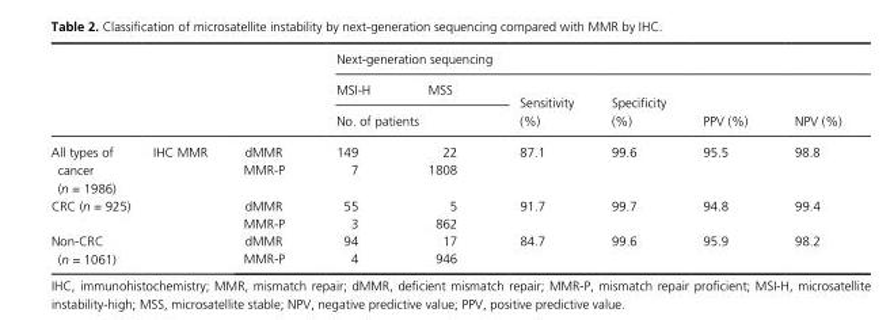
<table><thead><tr><td rowspan="3"></td><td rowspan="3"></td><td rowspan="3"></td><td colspan="6">Next- generation sequencing</td></tr><tr><td>MSI- H</td><td>MSS</td><td rowspan="2">Sensitivity (%)</td><td rowspan="2">Specificity (%)</td><td rowspan="2">PPV (%)</td><td rowspan="2">NPV (%)</td></tr><tr><td colspan="2">No. of patients</td></tr></thead><tbody><tr><td rowspan="2">All types of cancer (n = 1986)</td><td rowspan="6">IHC MMR</td><td>dMMR</td><td>149</td><td>22</td><td>87.1</td><td>99.6</td><td>95.5</td><td>98.8</td></tr><tr><td>MMR- P</td><td>7</td><td>1808</td><td></td><td></td><td></td><td></td></tr><tr><td rowspan="2">CRC (n = 925)</td><td>dMMR</td><td>55</td><td>5</td><td>91.7</td><td>99.7</td><td>94.8</td><td>99.4</td></tr><tr><td>MMR- P</td><td>3</td><td>862</td><td></td><td></td><td></td><td></td></tr><tr><td rowspan="2">Non- CRC (n = 1061)</td><td>dMMR</td><td>94</td><td>17</td><td>84.7</td><td>99.6</td><td>95.9</td><td>98.2</td></tr><tr><td>MMR- P</td><td>4</td><td>946</td><td></td><td></td><td></td><td></td></tr></tbody></table>